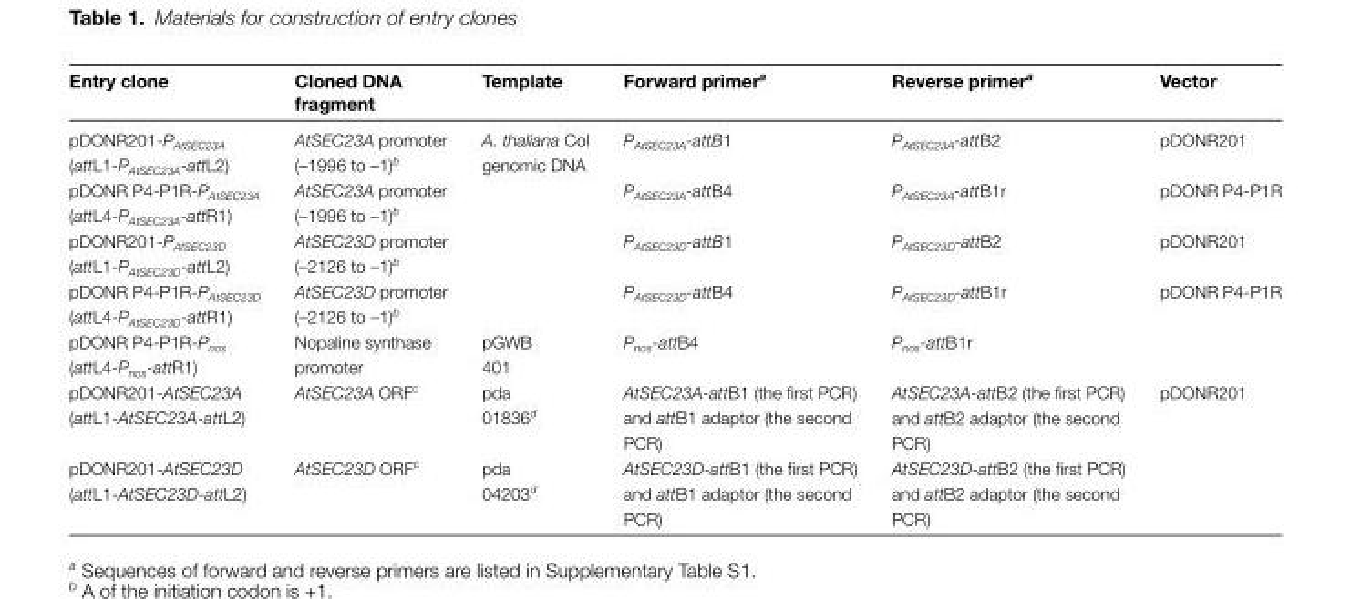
<table><thead><tr><td>Entry clone</td><td>Cloned DNA fragment</td><td>Template</td><td>Forward primer<sup>a</sup></td><td>Reverse primer<sup>a</sup></td><td>Vector</td></tr></thead><tbody><tr><td>pDONR201-P<sub>AtSEC23A</sub> (attL1-P<sub>AtSEC23A</sub>-attL2)</td><td>AtSEC23A promoter (–1996 to –1)<sup>b</sup></td><td rowspan="4">A. thaliana Col genomic DNA</td><td>P<sub>AtSEC23A</sub>-attB1</td><td>P<sub>AtSEC23A</sub>-attB2</td><td>pDONR201</td></tr><tr><td>pDONR P4-P1R-P<sub>AtSEC23A</sub> (attL4-P<sub>AtSEC23A</sub>-attR1)</td><td>AtSEC23A promoter (–1996 to –1)<sup>b</sup></td><td>P<sub>AtSEC23A</sub>-attB4</td><td>P<sub>AtSEC23A</sub>-attB1r</td><td>pDONR P4-P1R</td></tr><tr><td>pDONR201-P<sub>AtSEC23D</sub> (attL1-P<sub>AtSEC23D</sub>-attL2)</td><td>AtSEC23D promoter (–2126 to –1)<sup>b</sup></td><td>P<sub>AtSEC23D</sub>-attB1</td><td>P<sub>AtSEC23D</sub>-attB2</td><td>pDONR201</td></tr><tr><td>pDONR P4-P1R-P<sub>AtSEC23D</sub> (attL4-P<sub>AtSEC23D</sub>-attR1)</td><td>AtSEC23D promoter (–2126 to –1)<sup>b</sup></td><td>P<sub>AtSEC23D</sub>-attB4</td><td>P<sub>AtSEC23D</sub>-attB1r</td><td rowspan="2">pDONR P4-P1R</td></tr><tr><td>pDONR P4-P1R-P<sub>nos</sub> (attL4-P<sub>nos</sub>-attR1)</td><td>Nopaline synthase promoter</td><td>pGWB 401</td><td>P<sub>nos</sub>-attB4</td><td>P<sub>nos</sub>-attB1r</td></tr><tr><td>pDONR201-AtSEC23A (attL1-AtSEC23A-attL2)</td><td>AtSEC23A ORF<sup>c</sup></td><td>pda 01836<sup>d</sup></td><td>AtSEC23A-attB1 (the first PCR) and attB1 adaptor (the second PCR)</td><td>AtSEC23A-attB2 (the first PCR) and attB2 adaptor (the second PCR)</td><td rowspan="2">pDONR201</td></tr><tr><td>pDONR201-AtSEC23D (attL1-AtSEC23D-attL2)</td><td>AtSEC23D ORF<sup>c</sup></td><td>pda 04203<sup>d</sup></td><td>AtSEC23D-attB1 (the first PCR) and attB1 adaptor (the second PCR)</td><td>AtSEC23D-attB2 (the first PCR) and attB2 adaptor (the second PCR)</td></tr></tbody></table>